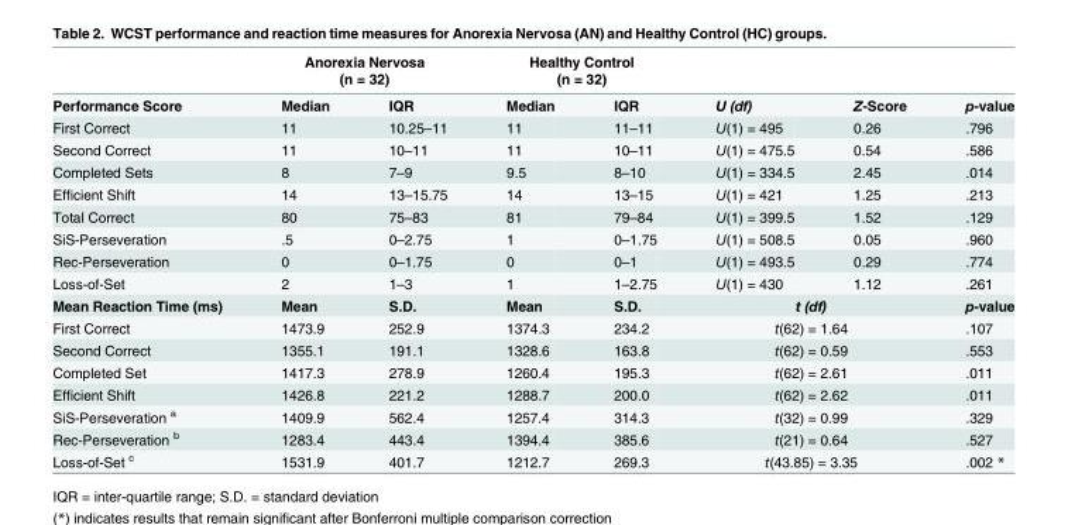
<table><thead><tr><td rowspan="2">Performance Score</td><td colspan="2">Anorexia Nervosa (n = 32)</td><td colspan="2">Healthy Control (n = 32)</td><td rowspan="2">U (df)</td><td rowspan="2">Z-Score</td><td rowspan="2">p-value</td></tr><tr><td>Median</td><td>IQR</td><td>Median</td><td>IQR</td></tr></thead><tbody><tr><td>First Correct</td><td>11</td><td>10.25–11</td><td>11</td><td>11–11</td><td>U(1) = 495</td><td>0.26</td><td>.796</td></tr><tr><td>Second Correct</td><td>11</td><td>10–11</td><td>11</td><td>10–11</td><td>U(1) = 475.5</td><td>0.54</td><td>.586</td></tr><tr><td>Completed Sets</td><td>8</td><td>7–9</td><td>9.5</td><td>8–10</td><td>U(1) = 334.5</td><td>2.45</td><td>.014</td></tr><tr><td>Efficient Shift</td><td>14</td><td>13–15.75</td><td>14</td><td>13–15</td><td>U(1) = 421</td><td>1.25</td><td>.213</td></tr><tr><td>Total Correct</td><td>80</td><td>75–83</td><td>81</td><td>79–84</td><td>U(1) = 399.5</td><td>1.52</td><td>.129</td></tr><tr><td>SiS-Perseveration</td><td>.5</td><td>0–2.75</td><td>1</td><td>0–1.75</td><td>U(1) = 508.5</td><td>0.05</td><td>.960</td></tr><tr><td>Rec-Perseveration</td><td>0</td><td>0–1.75</td><td>0</td><td>0–1</td><td>U(1) = 493.5</td><td>0.29</td><td>.774</td></tr><tr><td>Loss-of-Set</td><td>2</td><td>1–3</td><td>1</td><td>1–2.75</td><td>U(1) = 430</td><td>1.12</td><td>.261</td></tr><tr><td>Mean Reaction Time (ms)</td><td>Mean</td><td>S.D.</td><td>Mean</td><td>S.D.</td><td colspan="2">t (df)</td><td>p-value</td></tr><tr><td>First Correct</td><td>1473.9</td><td>252.9</td><td>1374.3</td><td>234.2</td><td colspan="2">t(62) = 1.64</td><td>.107</td></tr><tr><td>Second Correct</td><td>1355.1</td><td>191.1</td><td>1328.6</td><td>163.8</td><td colspan="2">t(62) = 0.59</td><td>.553</td></tr><tr><td>Completed Set</td><td>1417.3</td><td>278.9</td><td>1260.4</td><td>195.3</td><td colspan="2">t(62) = 2.61</td><td>.011</td></tr><tr><td>Efficient Shift</td><td>1426.8</td><td>221.2</td><td>1288.7</td><td>200.0</td><td colspan="2">t(62) = 2.62</td><td>.011</td></tr><tr><td>SiS-Perseveration <sup>a</sup></td><td>1409.9</td><td>562.4</td><td>1257.4</td><td>314.3</td><td colspan="2">t(32) = 0.99</td><td>.329</td></tr><tr><td>Rec-Perseveration <sup>b</sup></td><td>1283.4</td><td>443.4</td><td>1394.4</td><td>385.6</td><td colspan="2">t(21) = 0.64</td><td>.527</td></tr><tr><td>Loss-of-Set <sup>c</sup></td><td>1531.9</td><td>401.7</td><td>1212.7</td><td>269.3</td><td colspan="2">t(43.85) = 3.35</td><td>.002 *</td></tr></tbody></table>